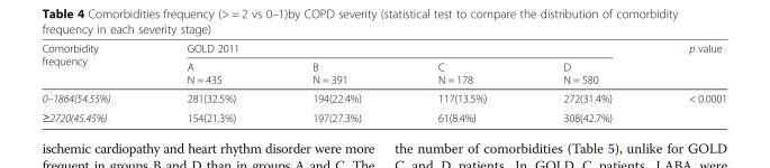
<table><thead><tr><td rowspan="2">Comorbidity frequency</td><td colspan="4">GOLD 2011</td><td rowspan="2">p value</td></tr><tr><td>A N = 435</td><td>B N = 391</td><td>C N = 178</td><td>D N = 580</td></tr></thead><tbody><tr><td>0–1864(54.55%)</td><td>281(32.5%)</td><td>194(22.4%)</td><td>117(13.5%)</td><td>272(31.4%)</td><td rowspan="2">&lt; 0.0001</td></tr><tr><td>≥2720(45.45%)</td><td>154(21.3%)</td><td>197(27.3%)</td><td>61(8.4%)</td><td>308(42.7%)</td></tr></tbody></table>